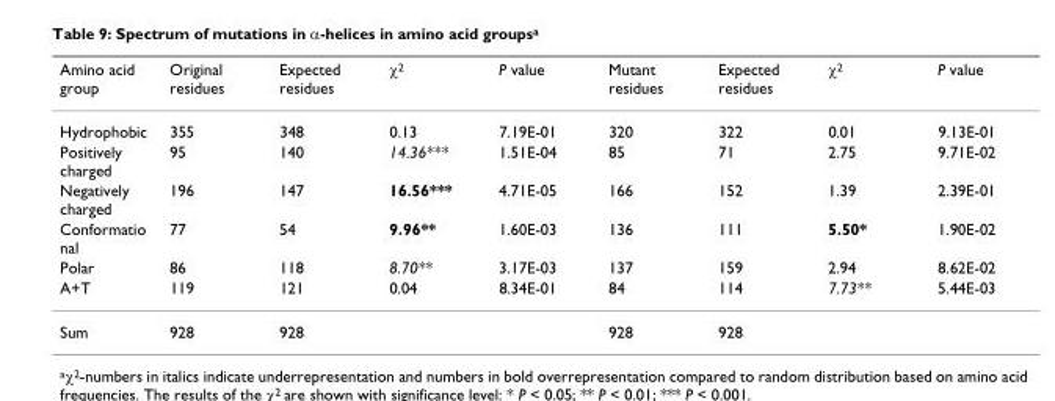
<table><thead><tr><td>Amino acid group</td><td>Original residues</td><td>Expected residues</td><td>χ<sup>2</sup></td><td>P value</td><td>Mutant residues</td><td>Expected residues</td><td>χ<sup>2</sup></td><td>P value</td></tr></thead><tbody><tr><td>Hydrophobic</td><td>355</td><td>348</td><td>0.13</td><td>7.19E-01</td><td>320</td><td>322</td><td>0.01</td><td>9.13E-01</td></tr><tr><td>Positively charged</td><td>95</td><td>140</td><td>14.36***</td><td>1.51E-04</td><td>85</td><td>71</td><td>2.75</td><td>9.71E-02</td></tr><tr><td>Negatively charged</td><td>196</td><td>147</td><td>16.56***</td><td>4.71E-05</td><td>166</td><td>152</td><td>1.39</td><td>2.39E-01</td></tr><tr><td>Conformatio nal</td><td>77</td><td>54</td><td>9.96**</td><td>1.60E-03</td><td>136</td><td>111</td><td>5.50*</td><td>1.90E-02</td></tr><tr><td>Polar</td><td>86</td><td>118</td><td>8.70**</td><td>3.17E-03</td><td>137</td><td>159</td><td>2.94</td><td>8.62E-02</td></tr><tr><td>A+T</td><td>119</td><td>121</td><td>0.04</td><td>8.34E-01</td><td>84</td><td>114</td><td>7.73**</td><td>5.44E-03</td></tr><tr><td>Sum</td><td>928</td><td>928</td><td></td><td></td><td>928</td><td>928</td><td></td><td></td></tr></tbody></table>